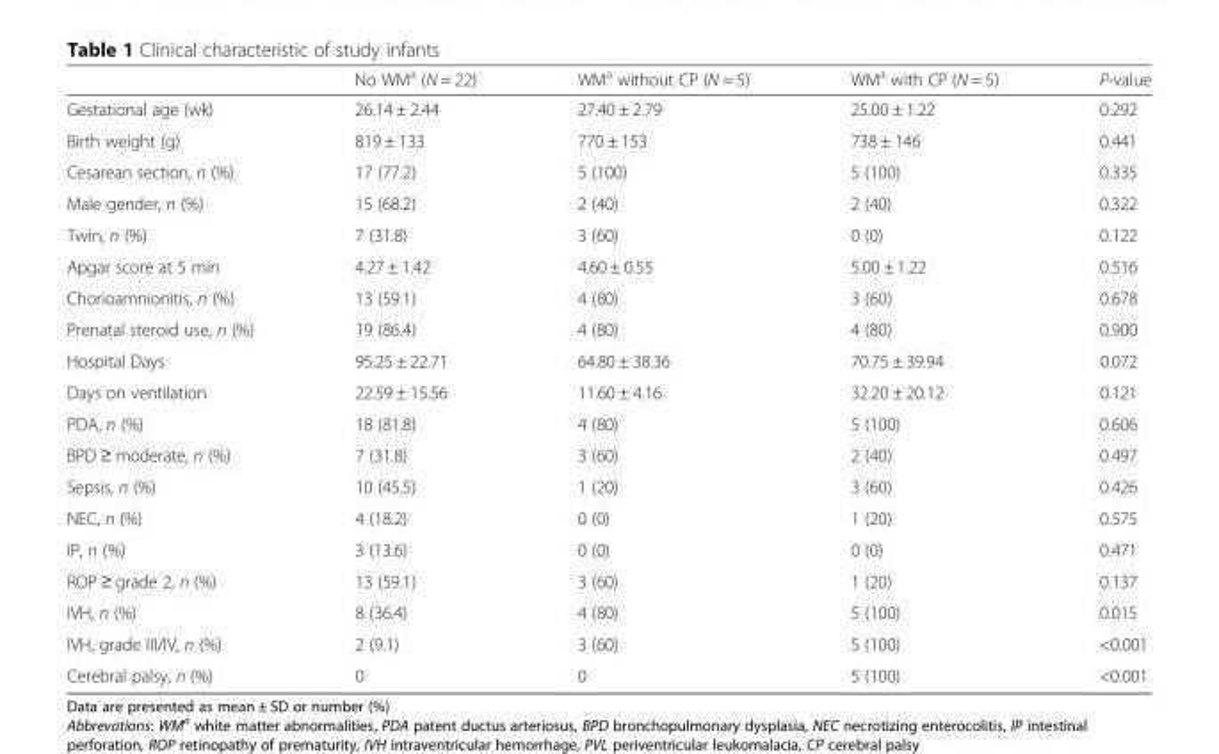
<table><thead><tr><td></td><td>No WM<sup>a</sup> (N = 22)</td><td>WM<sup>a</sup> without CP (N = 5)</td><td>WM<sup>a</sup> with CP (N = 5)</td><td>P-value</td></tr></thead><tbody><tr><td>Gestational age (wk)</td><td>26.14 ± 2.44</td><td>27.40 ± 2.79</td><td>25.00 ± 1.22</td><td>0.292</td></tr><tr><td>Birth weight (g)</td><td>819 ± 133</td><td>770 ± 153</td><td>738 ± 146</td><td>0.441</td></tr><tr><td>Cesarean section, n (%)</td><td>17 (77.2)</td><td>5 (100)</td><td>5 (100)</td><td>0.335</td></tr><tr><td>Male gender, n (%)</td><td>15 (68.2)</td><td>2 (40)</td><td>2 (40)</td><td>0.322</td></tr><tr><td>Twin, n (%)</td><td>7 (31.8)</td><td>3 (60)</td><td>0 (0)</td><td>0.122</td></tr><tr><td>Apgar score at 5 min</td><td>4.27 ± 1.42</td><td>4.60 ± 0.55</td><td>5.00 ± 1.22</td><td>0.516</td></tr><tr><td>Chorioamnionitis, n (%)</td><td>13 (59.1)</td><td>4 (80)</td><td>3 (60)</td><td>0.678</td></tr><tr><td>Prenatal steroid use, n (%)</td><td>19 (86.4)</td><td>4 (80)</td><td>4 (80)</td><td>0.900</td></tr><tr><td>Hospital Days</td><td>95.25 ± 22.71</td><td>64.80 ± 38.36</td><td>70.75 ± 39.94</td><td>0.072</td></tr><tr><td>Days on ventilation</td><td>22.59 ± 15.56</td><td>11.60 ± 4.16</td><td>32.20 ± 20.12</td><td>0.121</td></tr><tr><td>PDA, n (%)</td><td>18 (81.8)</td><td>4 (80)</td><td>5 (100)</td><td>0.606</td></tr><tr><td>BPD ≥ moderate, n (%)</td><td>7 (31.8)</td><td>3 (60)</td><td>2 (40)</td><td>0.497</td></tr><tr><td>Sepsis, n (%)</td><td>10 (45.5)</td><td>1 (20)</td><td>3 (60)</td><td>0.426</td></tr><tr><td>NEC, n (%)</td><td>4 (18.2)</td><td>0 (0)</td><td>1 (20)</td><td>0.575</td></tr><tr><td>IP, n (%)</td><td>3 (13.6)</td><td>0 (0)</td><td>0 (0)</td><td>0.471</td></tr><tr><td>ROP ≥ grade 2, n (%)</td><td>13 (59.1)</td><td>3 (60)</td><td>1 (20)</td><td>0.137</td></tr><tr><td>IVH, n (%)</td><td>8 (36.4)</td><td>4 (80)</td><td>5 (100)</td><td>0.015</td></tr><tr><td>IVH, grade III/IV, n (%)</td><td>2 (9.1)</td><td>3 (60)</td><td>5 (100)</td><td>&lt;0.001</td></tr><tr><td>Cerebral palsy, n (%)</td><td>0</td><td>0</td><td>5 (100)</td><td>&lt;0.001</td></tr></tbody></table>